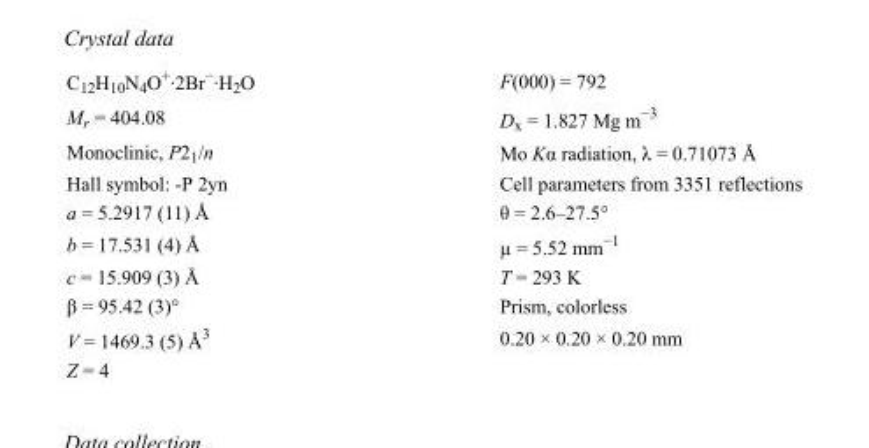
<table><tbody><tr><td>C<sub>12</sub>H<sub>10</sub>N<sub>4</sub>O<sup>+</sup>·2Br<sup>−</sup>·H<sub>2</sub>O</td><td>F(000) = 792</td></tr><tr><td>M<sub>r</sub> = 404.08</td><td>D<sub>x</sub> = 1.827 Mg m<sup>−3</sup></td></tr><tr><td>Monoclinic, P2<sub>1</sub>/n</td><td>Mo Kα radiation, λ = 0.71073 Å</td></tr><tr><td>Hall symbol: -P 2yn</td><td>Cell parameters from 3351 reflections</td></tr><tr><td>a = 5.2917 (11) Å</td><td>θ = 2.6–27.5°</td></tr><tr><td>b = 17.531 (4) Å</td><td>µ = 5.52 mm<sup>−1</sup></td></tr><tr><td>c = 15.909 (3) Å</td><td>T = 293 K</td></tr><tr><td>β = 95.42 (3)°</td><td>Prism, colorless</td></tr><tr><td>V = 1469.3 (5) Å<sup>3</sup></td><td>0.20 × 0.20 × 0.20 mm</td></tr><tr><td>Z = 4</td><td></td></tr></tbody></table>